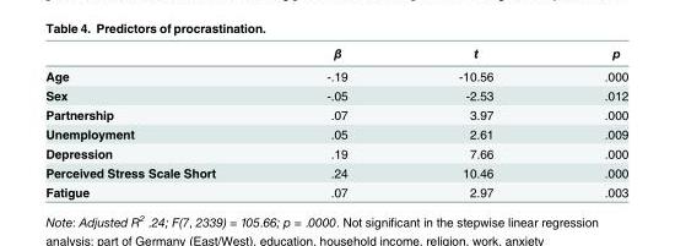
<table><thead><tr><td></td><td>β</td><td>t</td><td>p</td></tr></thead><tbody><tr><td>Age</td><td>-.19</td><td>-10.56</td><td>.000</td></tr><tr><td>Sex</td><td>-.05</td><td>-2.53</td><td>.012</td></tr><tr><td>Partnership</td><td>.07</td><td>3.97</td><td>.000</td></tr><tr><td>Unemployment</td><td>.05</td><td>2.61</td><td>.009</td></tr><tr><td>Depression</td><td>.19</td><td>7.66</td><td>.000</td></tr><tr><td>Perceived Stress Scale Short</td><td>.24</td><td>10.46</td><td>.000</td></tr><tr><td>Fatigue</td><td>.07</td><td>2.97</td><td>.003</td></tr></tbody></table>